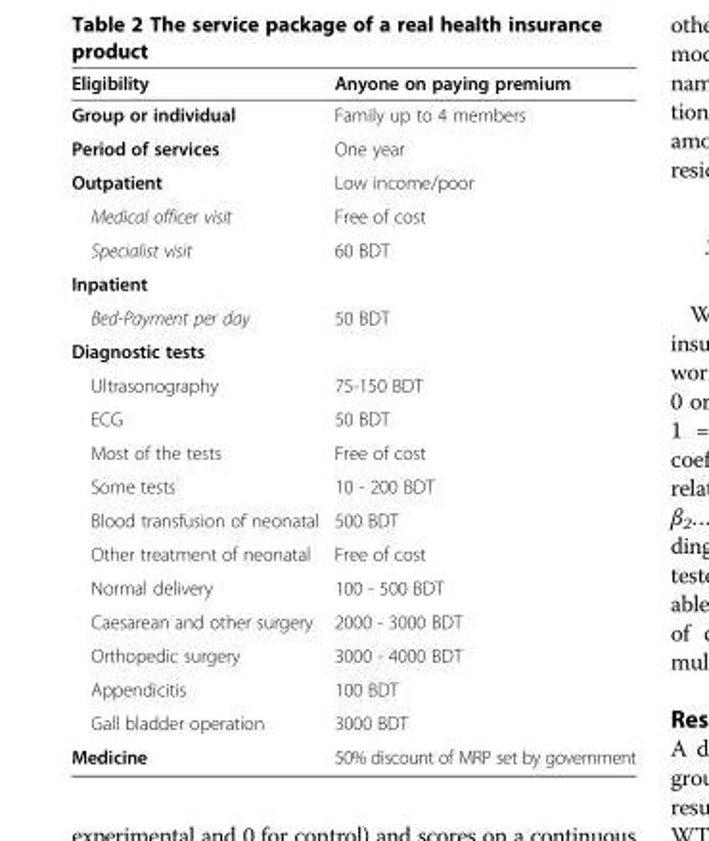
<table><thead><tr><td>Eligibility</td><td>Anyone on paying premium</td></tr></thead><tbody><tr><td>Group or individual</td><td>Family up to 4 members</td></tr><tr><td>Period of services</td><td>One year</td></tr><tr><td>Outpatient</td><td>Low income/poor</td></tr><tr><td>Medical officer visit</td><td>Free of cost</td></tr><tr><td>Specialist visit</td><td>60 BDT</td></tr><tr><td colspan="2">Inpatient</td></tr><tr><td>Bed-Payment per day</td><td>50 BDT</td></tr><tr><td colspan="2">Diagnostic tests</td></tr><tr><td>Ultrasonography</td><td>75-150 BDT</td></tr><tr><td>ECG</td><td>50 BDT</td></tr><tr><td>Most of the tests</td><td>Free of cost</td></tr><tr><td>Some tests</td><td>10 - 200 BDT</td></tr><tr><td>Blood transfusion of neonatal</td><td>500 BDT</td></tr><tr><td>Other treatment of neonatal</td><td>Free of cost</td></tr><tr><td>Normal delivery</td><td>100 - 500 BDT</td></tr><tr><td>Caesarean and other surgery</td><td>2000 - 3000 BDT</td></tr><tr><td>Orthopedic surgery</td><td>3000 - 4000 BDT</td></tr><tr><td>Appendicitis</td><td>100 BDT</td></tr><tr><td>Gall bladder operation</td><td>3000 BDT</td></tr><tr><td>Medicine</td><td>50% discount of MRP set by government</td></tr></tbody></table>